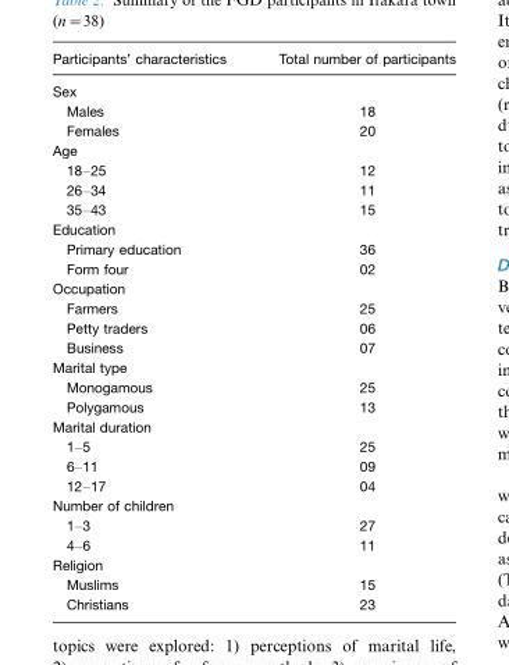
<table><thead><tr><td>Participants’ characteristics</td><td>Total number of participants</td></tr></thead><tbody><tr><td colspan="2">Sex</td></tr><tr><td>Males</td><td>18</td></tr><tr><td>Females</td><td>20</td></tr><tr><td colspan="2">Age</td></tr><tr><td>18–25</td><td>12</td></tr><tr><td>26–34</td><td>11</td></tr><tr><td>35–43</td><td>15</td></tr><tr><td colspan="2">Education</td></tr><tr><td>Primary education</td><td>36</td></tr><tr><td>Form four</td><td>02</td></tr><tr><td colspan="2">Occupation</td></tr><tr><td>Farmers</td><td>25</td></tr><tr><td>Petty traders</td><td>06</td></tr><tr><td>Business</td><td>07</td></tr><tr><td colspan="2">Marital type</td></tr><tr><td>Monogamous</td><td>25</td></tr><tr><td>Polygamous</td><td>13</td></tr><tr><td colspan="2">Marital duration</td></tr><tr><td>1–5</td><td>25</td></tr><tr><td>6–11</td><td>09</td></tr><tr><td>12–17</td><td>04</td></tr><tr><td colspan="2">Number of children</td></tr><tr><td>1–3</td><td>27</td></tr><tr><td>4–6</td><td>11</td></tr><tr><td colspan="2">Religion</td></tr><tr><td>Muslims</td><td>15</td></tr><tr><td>Christians</td><td>23</td></tr></tbody></table>